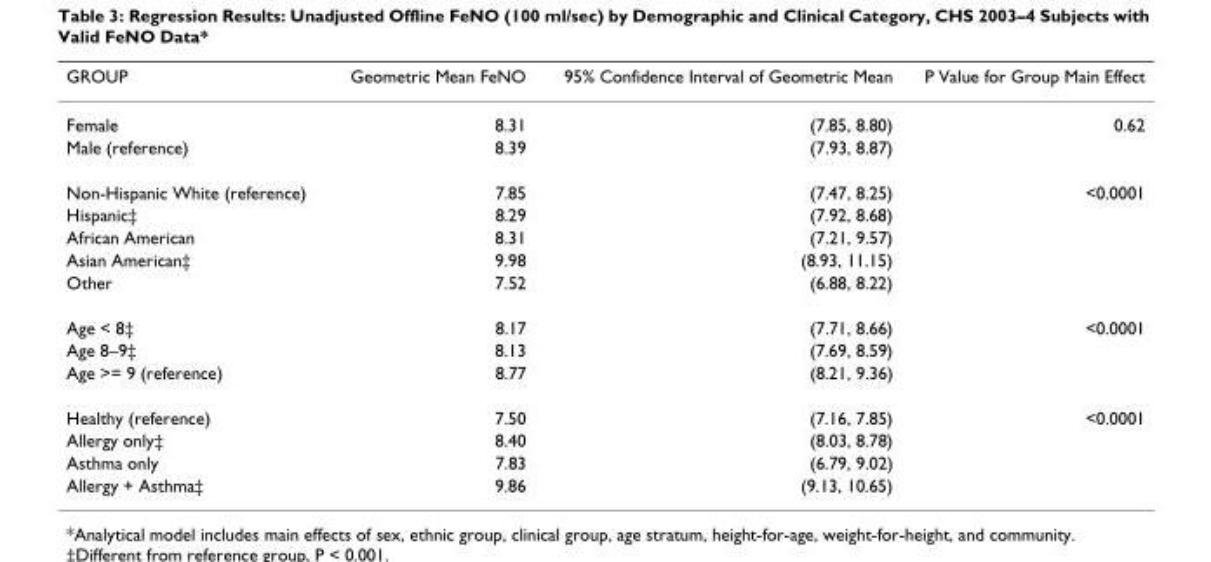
<table><thead><tr><td>GROUP</td><td>Geometric Mean FeNO</td><td>95% Confidence Interval of Geometric Mean</td><td>P Value for Group Main Effect</td></tr></thead><tbody><tr><td>Female</td><td>8.31</td><td>(7.85, 8.80)</td><td>0.62</td></tr><tr><td>Male (reference)</td><td>8.39</td><td>(7.93, 8.87)</td><td></td></tr><tr><td>Non-Hispanic White (reference)</td><td>7.85</td><td>(7.47, 8.25)</td><td>&lt;0.0001</td></tr><tr><td>Hispanic‡</td><td>8.29</td><td>(7.92, 8.68)</td><td></td></tr><tr><td>African American</td><td>8.31</td><td>(7.21, 9.57)</td><td></td></tr><tr><td>Asian American‡</td><td>9.98</td><td>(8.93, 11.15)</td><td></td></tr><tr><td>Other</td><td>7.52</td><td>(6.88, 8.22)</td><td></td></tr><tr><td>Age &lt; 8‡</td><td>8.17</td><td>(7.71, 8.66)</td><td>&lt;0.0001</td></tr><tr><td>Age 8–9‡</td><td>8.13</td><td>(7.69, 8.59)</td><td></td></tr><tr><td>Age &gt;= 9 (reference)</td><td>8.77</td><td>(8.21, 9.36)</td><td></td></tr><tr><td>Healthy (reference)</td><td>7.50</td><td>(7.16, 7.85)</td><td>&lt;0.0001</td></tr><tr><td>Allergy only‡</td><td>8.40</td><td>(8.03, 8.78)</td><td></td></tr><tr><td>Asthma only</td><td>7.83</td><td>(6.79, 9.02)</td><td></td></tr><tr><td>Allergy + Asthma‡</td><td>9.86</td><td>(9.13, 10.65)</td><td></td></tr></tbody></table>